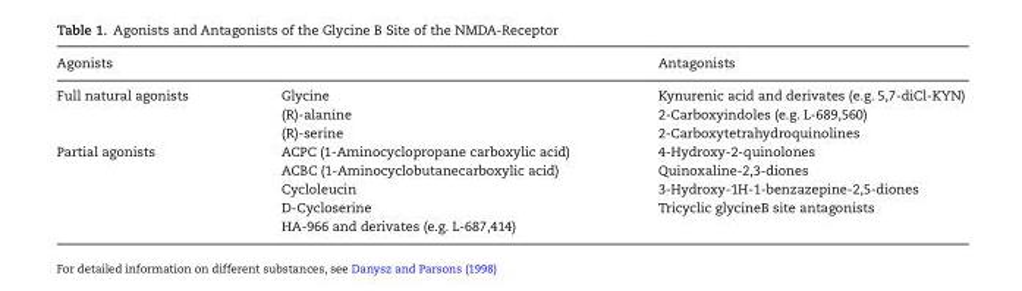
<table><thead><tr><td colspan="2">Agonists</td><td rowspan="2">Antagonists Kynurenic acid and derivates (e.g. 5,7-diCl-KYN)</td></tr><tr><td>Full natural agonists</td><td>Glycine</td></tr></thead><tbody><tr><td></td><td>(R)-alanine</td><td>2-Carboxyindoles (e.g. L-689,560)</td></tr><tr><td></td><td>(R)-serine</td><td>2-Carboxytetrahydroquinolines</td></tr><tr><td rowspan="5">Partial agonists</td><td>ACPC (1-Aminocyclopropane carboxylic acid)</td><td>4-Hydroxy-2-quinolones</td></tr><tr><td>ACBC (1-Aminocyclobutanecarboxylic acid)</td><td>Quinoxaline-2,3-diones</td></tr><tr><td>Cycloleucin</td><td>3-Hydroxy-1H-1-benzazepine-2,5-diones</td></tr><tr><td>D-Cycloserine</td><td>Tricyclic glycineB site antagonists</td></tr><tr><td>HA-966 and derivates (e.g. L-687,414)</td><td></td></tr></tbody></table>